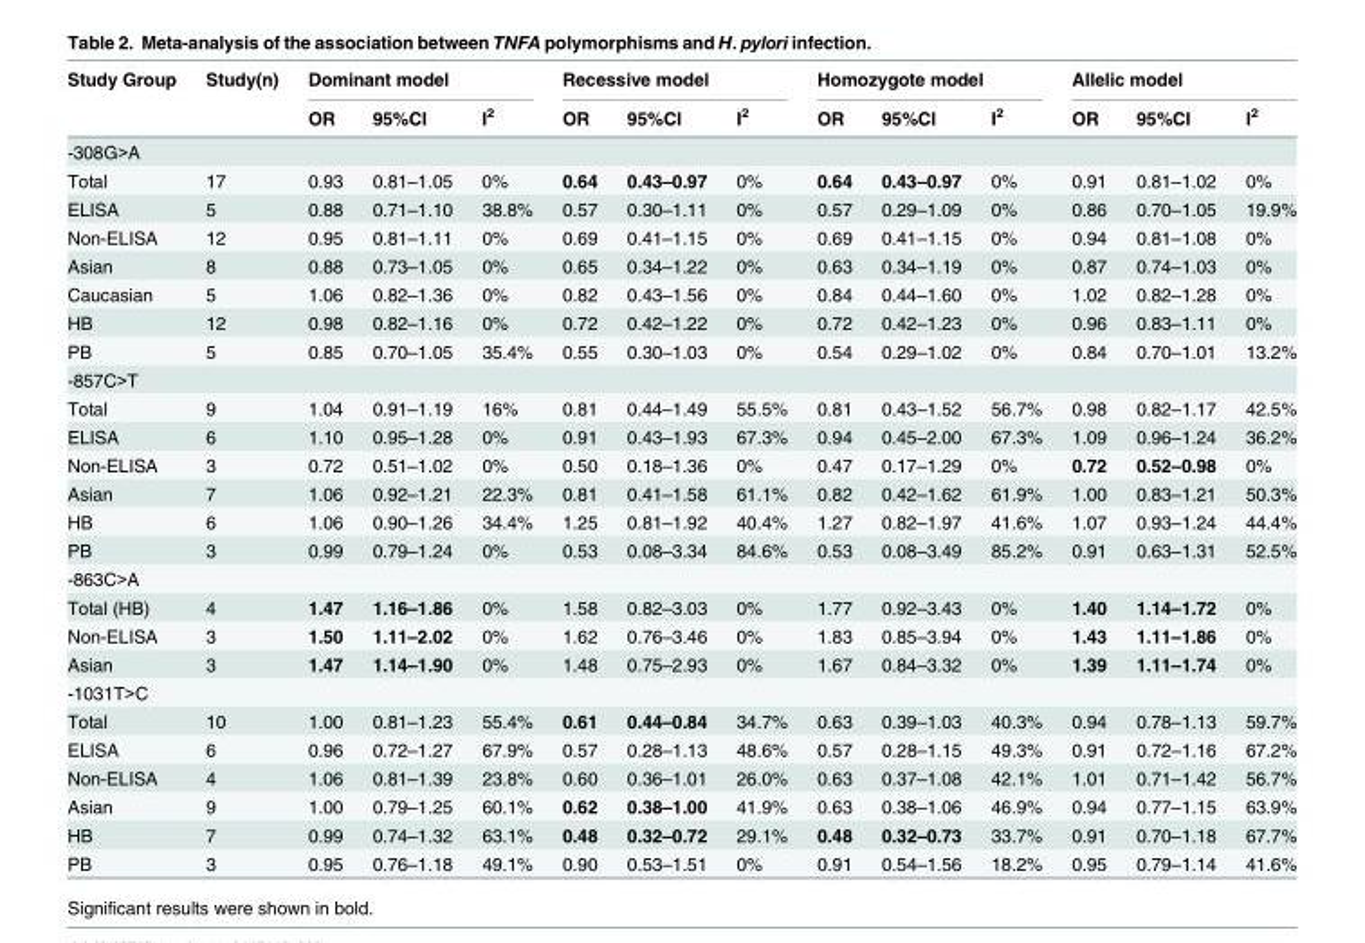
<table><thead><tr><td rowspan="2">Study Group</td><td rowspan="2">Study(n)</td><td colspan="3">Dominant model</td><td colspan="3">Recessive model</td><td colspan="3">Homozygote model</td><td colspan="3">Allelic model</td></tr><tr><td>OR</td><td>95%CI</td><td>I<sup>2</sup></td><td>OR</td><td>95%CI</td><td>I<sup>2</sup></td><td>OR</td><td>95%CI</td><td>I<sup>2</sup></td><td>OR</td><td>95%CI</td><td>I<sup>2</sup></td></tr></thead><tbody><tr><td colspan="14">-308G&gt;A</td></tr><tr><td>Total</td><td>17</td><td>0.93</td><td>0.81–1.05</td><td>0%</td><td>0.64</td><td>0.43–0.97</td><td>0%</td><td>0.64</td><td>0.43–0.97</td><td>0%</td><td>0.91</td><td>0.81–1.02</td><td>0%</td></tr><tr><td>ELISA</td><td>5</td><td>0.88</td><td>0.71–1.10</td><td>38.8%</td><td>0.57</td><td>0.30–1.11</td><td>0%</td><td>0.57</td><td>0.29–1.09</td><td>0%</td><td>0.86</td><td>0.70–1.05</td><td>19.9%</td></tr><tr><td>Non-ELISA</td><td>12</td><td>0.95</td><td>0.81–1.11</td><td>0%</td><td>0.69</td><td>0.41–1.15</td><td>0%</td><td>0.69</td><td>0.41–1.15</td><td>0%</td><td>0.94</td><td>0.81–1.08</td><td>0%</td></tr><tr><td>Asian</td><td>8</td><td>0.88</td><td>0.73–1.05</td><td>0%</td><td>0.65</td><td>0.34–1.22</td><td>0%</td><td>0.63</td><td>0.34–1.19</td><td>0%</td><td>0.87</td><td>0.74–1.03</td><td>0%</td></tr><tr><td>Caucasian</td><td>5</td><td>1.06</td><td>0.82–1.36</td><td>0%</td><td>0.82</td><td>0.43–1.56</td><td>0%</td><td>0.84</td><td>0.44–1.60</td><td>0%</td><td>1.02</td><td>0.82–1.28</td><td>0%</td></tr><tr><td>HB</td><td>12</td><td>0.98</td><td>0.82–1.16</td><td>0%</td><td>0.72</td><td>0.42–1.22</td><td>0%</td><td>0.72</td><td>0.42–1.23</td><td>0%</td><td>0.96</td><td>0.83–1.11</td><td>0%</td></tr><tr><td>PB</td><td>5</td><td>0.85</td><td>0.70–1.05</td><td>35.4%</td><td>0.55</td><td>0.30–1.03</td><td>0%</td><td>0.54</td><td>0.29–1.02</td><td>0%</td><td>0.84</td><td>0.70–1.01</td><td>13.2%</td></tr><tr><td colspan="14">-857C&gt;T</td></tr><tr><td>Total</td><td>9</td><td>1.04</td><td>0.91–1.19</td><td>16%</td><td>0.81</td><td>0.44–1.49</td><td>55.5%</td><td>0.81</td><td>0.43–1.52</td><td>56.7%</td><td>0.98</td><td>0.82–1.17</td><td>42.5%</td></tr><tr><td>ELISA</td><td>6</td><td>1.10</td><td>0.95–1.28</td><td>0%</td><td>0.91</td><td>0.43–1.93</td><td>67.3%</td><td>0.94</td><td>0.45–2.00</td><td>67.3%</td><td>1.09</td><td>0.96–1.24</td><td>36.2%</td></tr><tr><td>Non-ELISA</td><td>3</td><td>0.72</td><td>0.51–1.02</td><td>0%</td><td>0.50</td><td>0.18–1.36</td><td>0%</td><td>0.47</td><td>0.17–1.29</td><td>0%</td><td>0.72</td><td>0.52–0.98</td><td>0%</td></tr><tr><td>Asian</td><td>7</td><td>1.06</td><td>0.92–1.21</td><td>22.3%</td><td>0.81</td><td>0.41–1.58</td><td>61.1%</td><td>0.82</td><td>0.42–1.62</td><td>61.9%</td><td>1.00</td><td>0.83–1.21</td><td>50.3%</td></tr><tr><td>HB</td><td>6</td><td>1.06</td><td>0.90–1.26</td><td>34.4%</td><td>1.25</td><td>0.81–1.92</td><td>40.4%</td><td>1.27</td><td>0.82–1.97</td><td>41.6%</td><td>1.07</td><td>0.93–1.24</td><td>44.4%</td></tr><tr><td>PB</td><td>3</td><td>0.99</td><td>0.79–1.24</td><td>0%</td><td>0.53</td><td>0.08–3.34</td><td>84.6%</td><td>0.53</td><td>0.08–3.49</td><td>85.2%</td><td>0.91</td><td>0.63–1.31</td><td>52.5%</td></tr><tr><td colspan="14">-863C&gt;A</td></tr><tr><td>Total (HB)</td><td>4</td><td>1.47</td><td>1.16–1.86</td><td>0%</td><td>1.58</td><td>0.82–3.03</td><td>0%</td><td>1.77</td><td>0.92–3.43</td><td>0%</td><td>1.40</td><td>1.14–1.72</td><td>0%</td></tr><tr><td>Non-ELISA</td><td>3</td><td>1.50</td><td>1.11–2.02</td><td>0%</td><td>1.62</td><td>0.76–3.46</td><td>0%</td><td>1.83</td><td>0.85–3.94</td><td>0%</td><td>1.43</td><td>1.11–1.86</td><td>0%</td></tr><tr><td>Asian</td><td>3</td><td>1.47</td><td>1.14–1.90</td><td>0%</td><td>1.48</td><td>0.75–2.93</td><td>0%</td><td>1.67</td><td>0.84–3.32</td><td>0%</td><td>1.39</td><td>1.11–1.74</td><td>0%</td></tr><tr><td colspan="14">-1031T&gt;C</td></tr><tr><td>Total</td><td>10</td><td>1.00</td><td>0.81–1.23</td><td>55.4%</td><td>0.61</td><td>0.44–0.84</td><td>34.7%</td><td>0.63</td><td>0.39–1.03</td><td>40.3%</td><td>0.94</td><td>0.78–1.13</td><td>59.7%</td></tr><tr><td>ELISA</td><td>6</td><td>0.96</td><td>0.72–1.27</td><td>67.9%</td><td>0.57</td><td>0.28–1.13</td><td>48.6%</td><td>0.57</td><td>0.28–1.15</td><td>49.3%</td><td>0.91</td><td>0.72–1.16</td><td>67.2%</td></tr><tr><td>Non-ELISA</td><td>4</td><td>1.06</td><td>0.81–1.39</td><td>23.8%</td><td>0.60</td><td>0.36–1.01</td><td>26.0%</td><td>0.63</td><td>0.37–1.08</td><td>42.1%</td><td>1.01</td><td>0.71–1.42</td><td>56.7%</td></tr><tr><td>Asian</td><td>9</td><td>1.00</td><td>0.79–1.25</td><td>60.1%</td><td>0.62</td><td>0.38–1.00</td><td>41.9%</td><td>0.63</td><td>0.38–1.06</td><td>46.9%</td><td>0.94</td><td>0.77–1.15</td><td>63.9%</td></tr><tr><td>HB</td><td>7</td><td>0.99</td><td>0.74–1.32</td><td>63.1%</td><td>0.48</td><td>0.32–0.72</td><td>29.1%</td><td>0.48</td><td>0.32–0.73</td><td>33.7%</td><td>0.91</td><td>0.70–1.18</td><td>67.7%</td></tr><tr><td>PB</td><td>3</td><td>0.95</td><td>0.76–1.18</td><td>49.1%</td><td>0.90</td><td>0.53–1.51</td><td>0%</td><td>0.91</td><td>0.54–1.56</td><td>18.2%</td><td>0.95</td><td>0.79–1.14</td><td>41.6%</td></tr></tbody></table>